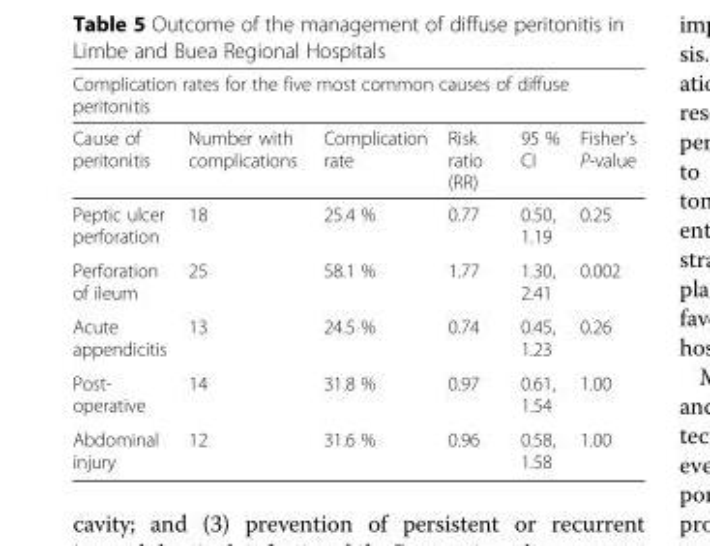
<table><thead><tr><td colspan="6">Complication rates for the five most common causes of diffuse peritonitis</td></tr><tr><td>Cause of peritonitis</td><td>Number with complications</td><td>Complication rate</td><td>Risk ratio (RR)</td><td>95 % CI</td><td>Fisher’s P-value</td></tr></thead><tbody><tr><td>Peptic ulcer perforation</td><td>18</td><td>25.4 %</td><td>0.77</td><td>0.50, 1.19</td><td>0.25</td></tr><tr><td>Perforation of ileum</td><td>25</td><td>58.1 %</td><td>1.77</td><td>1.30, 2.41</td><td>0.002</td></tr><tr><td>Acute appendicitis</td><td>13</td><td>24.5 %</td><td>0.74</td><td>0.45, 1.23</td><td>0.26</td></tr><tr><td>Post- operative</td><td>14</td><td>31.8 %</td><td>0.97</td><td>0.61, 1.54</td><td>1.00</td></tr><tr><td>Abdominal injury</td><td>12</td><td>31.6 %</td><td>0.96</td><td>0.58, 1.58</td><td>1.00</td></tr></tbody></table>